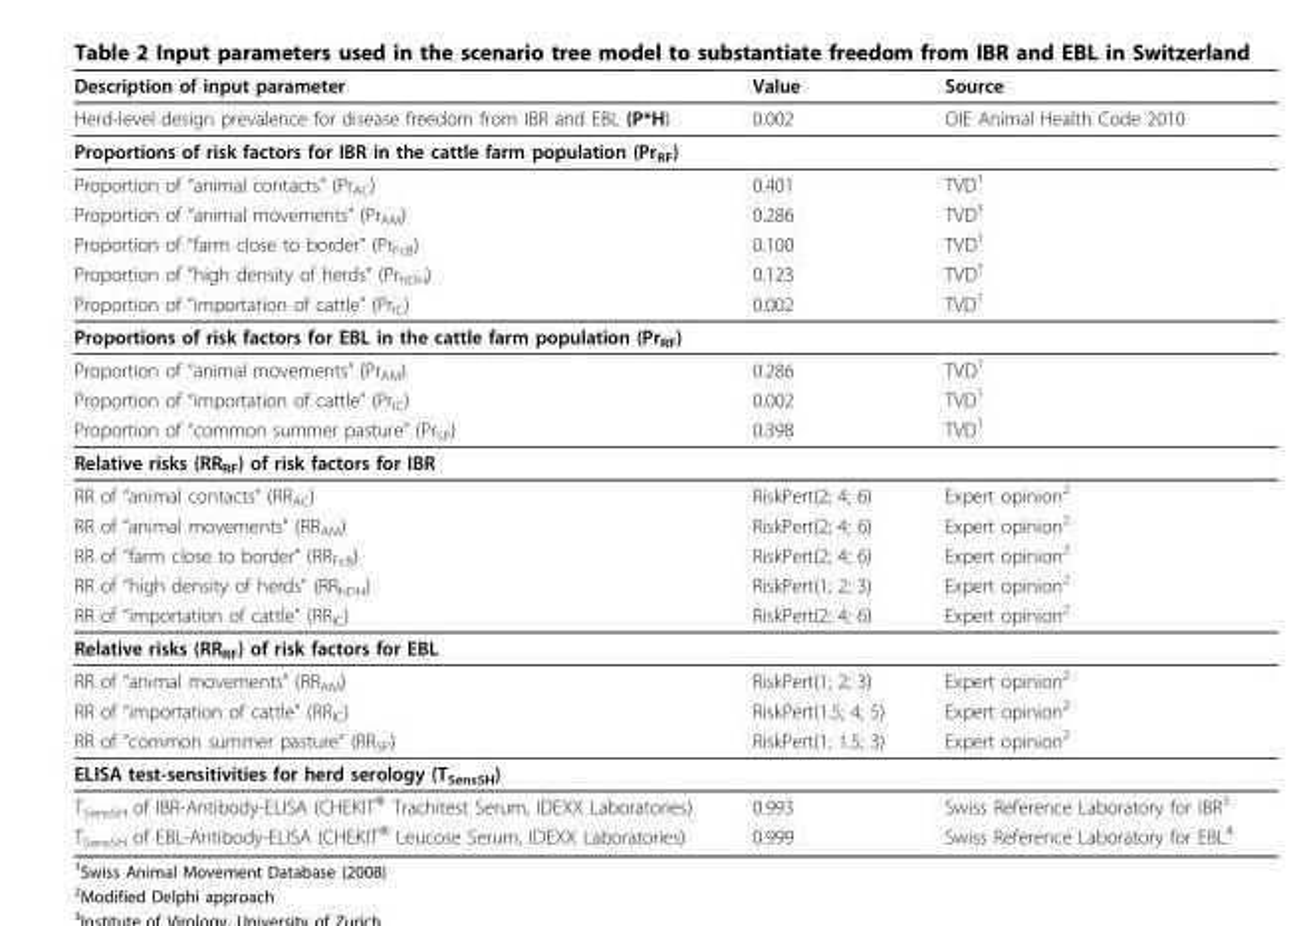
<table><thead><tr><td>Description of input parameter</td><td>Value</td><td>Source</td></tr></thead><tbody><tr><td>Herd-level design prevalence for disease freedom from IBR and EBL (P*H)</td><td>0.002</td><td>OIE Animal Health Code 2010</td></tr><tr><td colspan="3">Proportions of risk factors for IBR in the cattle farm population (PrRF)</td></tr><tr><td>Proportion of “animal contacts” (PrAC)</td><td>0.401</td><td>TVD1</td></tr><tr><td>Proportion of “animal movements” (PrAM)</td><td>0.286</td><td>TVD1</td></tr><tr><td>Proportion of “farm close to border” (PrFcB)</td><td>0.100</td><td>TVD1</td></tr><tr><td>Proportion of “high density of herds” (PrhDH)</td><td>0.123</td><td>TVD1</td></tr><tr><td>Proportion of “importation of cattle” (PrIC)</td><td>0.002</td><td>TVD1</td></tr><tr><td colspan="3">Proportions of risk factors for EBL in the cattle farm population (PrRF)</td></tr><tr><td>Proportion of “animal movements” (PrAM)</td><td>0.286</td><td>TVD1</td></tr><tr><td>Proportion of “importation of cattle” (PrIC)</td><td>0.002</td><td>TVD1</td></tr><tr><td>Proportion of “common summer pasture” (PrSP)</td><td>0.398</td><td>TVD1</td></tr><tr><td colspan="3">Relative risks (RRRF) of risk factors for IBR</td></tr><tr><td>RR of “animal contacts” (RRAC)</td><td>RiskPert(2; 4; 6)</td><td>Expert opinion2</td></tr><tr><td>RR of “animal movements” (RRAM)</td><td>RiskPert(2; 4; 6)</td><td>Expert opinion2</td></tr><tr><td>RR of “farm close to border” (RRFcB)</td><td>RiskPert(2; 4; 6)</td><td>Expert opinion2</td></tr><tr><td>RR of “high density of herds” (RRhDH)</td><td>RiskPert(1; 2; 3)</td><td>Expert opinion2</td></tr><tr><td>RR of “importation of cattle” (RRIC)</td><td>RiskPert(2; 4; 6)</td><td>Expert opinion2</td></tr><tr><td colspan="3">Relative risks (RRRF) of risk factors for EBL</td></tr><tr><td>RR of “animal movements” (RRAM)</td><td>RiskPert(1; 2; 3)</td><td>Expert opinion2</td></tr><tr><td>RR of “importation of cattle” (RRIC)</td><td>RiskPert(1.5; 4; 5)</td><td>Expert opinion2</td></tr><tr><td>RR of “common summer pasture” (RRSP)</td><td>RiskPert(1; 1.5; 3)</td><td>Expert opinion2</td></tr><tr><td colspan="3">ELISA test-sensitivities for herd serology (TSensSH)</td></tr><tr><td>TSensSH of IBR-Antibody-ELISA (CHEKIT® Trachitest Serum, IDEXX Laboratories)</td><td>0.993</td><td>Swiss Reference Laboratory for IBR3</td></tr><tr><td>TSensSH of EBL-Antibody-ELISA (CHEKIT® Leucose Serum, IDEXX Laboratories)</td><td>0.999</td><td>Swiss Reference Laboratory for EBL4</td></tr></tbody></table>